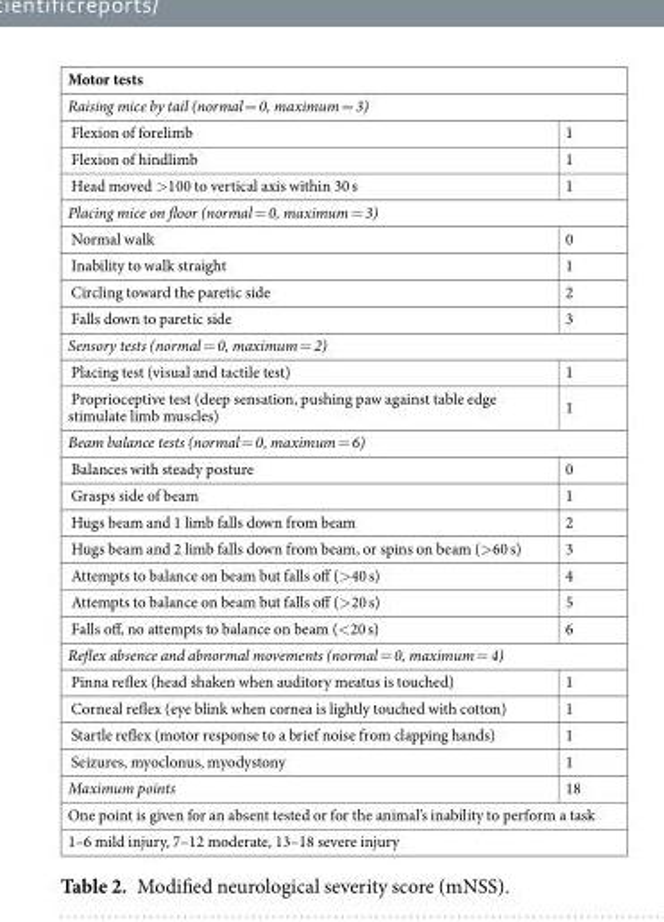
<table><tbody><tr><td colspan="2">Motor tests</td></tr><tr><td colspan="2">Raising mice by tail (normal = 0, maximum = 3)</td></tr><tr><td>Flexion of forelimb</td><td>1</td></tr><tr><td>Flexion of hindlimb</td><td>1</td></tr><tr><td>Head moved &gt;100 to vertical axis within 30 s</td><td>1</td></tr><tr><td colspan="2">Placing mice on floor (normal = 0, maximum = 3)</td></tr><tr><td>Normal walk</td><td>0</td></tr><tr><td>Inability to walk straight</td><td>1</td></tr><tr><td>Circling toward the paretic side</td><td>2</td></tr><tr><td>Falls down to paretic side</td><td>3</td></tr><tr><td colspan="2">Sensory tests (normal = 0, maximum = 2)</td></tr><tr><td>Placing test (visual and tactile test)</td><td>1</td></tr><tr><td>Proprioceptive test (deep sensation, pushing paw against table edge stimulate limb muscles)</td><td>1</td></tr><tr><td colspan="2">Beam balance tests (normal = 0, maximum = 6)</td></tr><tr><td>Balances with steady posture</td><td>0</td></tr><tr><td>Grasps side of beam</td><td>1</td></tr><tr><td>Hugs beam and 1 limb falls down from beam</td><td>2</td></tr><tr><td>Hugs beam and 2 limb falls down from beam, or spins on beam (&gt;60 s)</td><td>3</td></tr><tr><td>Attempts to balance on beam but falls off (&gt;40 s)</td><td>4</td></tr><tr><td>Attempts to balance on beam but falls off (&gt;20 s)</td><td>5</td></tr><tr><td>Falls off, no attempts to balance on beam (&lt;20 s)</td><td>6</td></tr><tr><td colspan="2">Reflex absence and abnormal movements (normal = 0, maximum = 4)</td></tr><tr><td>Pinna reflex (head shaken when auditory meatus is touched)</td><td>1</td></tr><tr><td>Corneal reflex (eye blink when cornea is lightly touched with cotton)</td><td>1</td></tr><tr><td>Startle reflex (motor response to a brief noise from clapping hands)</td><td>1</td></tr><tr><td>Seizures, myoclonus, myodystony</td><td>1</td></tr><tr><td>Maximum points</td><td>18</td></tr><tr><td colspan="2">One point is given for an absent tested or for the animal’s inability to perform a task</td></tr><tr><td colspan="2">1–6 mild injury, 7–12 moderate, 13–18 severe injury</td></tr></tbody></table>